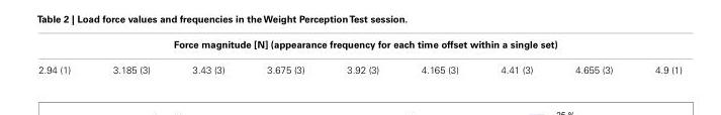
<table><thead><tr><td colspan="9">Force magnitude [N] (appearance frequency for each time offset within a single set)</td></tr><tr><td>2.94 (1)</td><td>3.185 (3)</td><td>3.43 (3)</td><td>3.675 (3)</td><td>3.92 (3)</td><td>4.165 (3)</td><td>4.41 (3)</td><td>4.655 (3)</td><td>4.9 (1)</td></tr></thead><tbody></tbody></table>